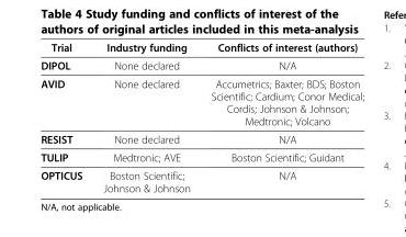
<table><thead><tr><td>Trial</td><td>Industry funding</td><td>Conflicts of interest (authors)</td></tr></thead><tbody><tr><td>DIPOL</td><td>None declared</td><td>N/A</td></tr><tr><td>AVID</td><td>None declared</td><td>Accumetrics; Baxter; BDS; Boston Scientific; Cardium; Conor Medical; Cordis; Johnson &amp; Johnson; Medtronic; Volcano</td></tr><tr><td>RESIST</td><td>None declared</td><td>N/A</td></tr><tr><td>TULIP</td><td>Medtronic; AVE</td><td>Boston Scientific; Guidant</td></tr><tr><td>OPTICUS</td><td>Boston Scientific; Johnson &amp; Johnson</td><td>N/A</td></tr></tbody></table>